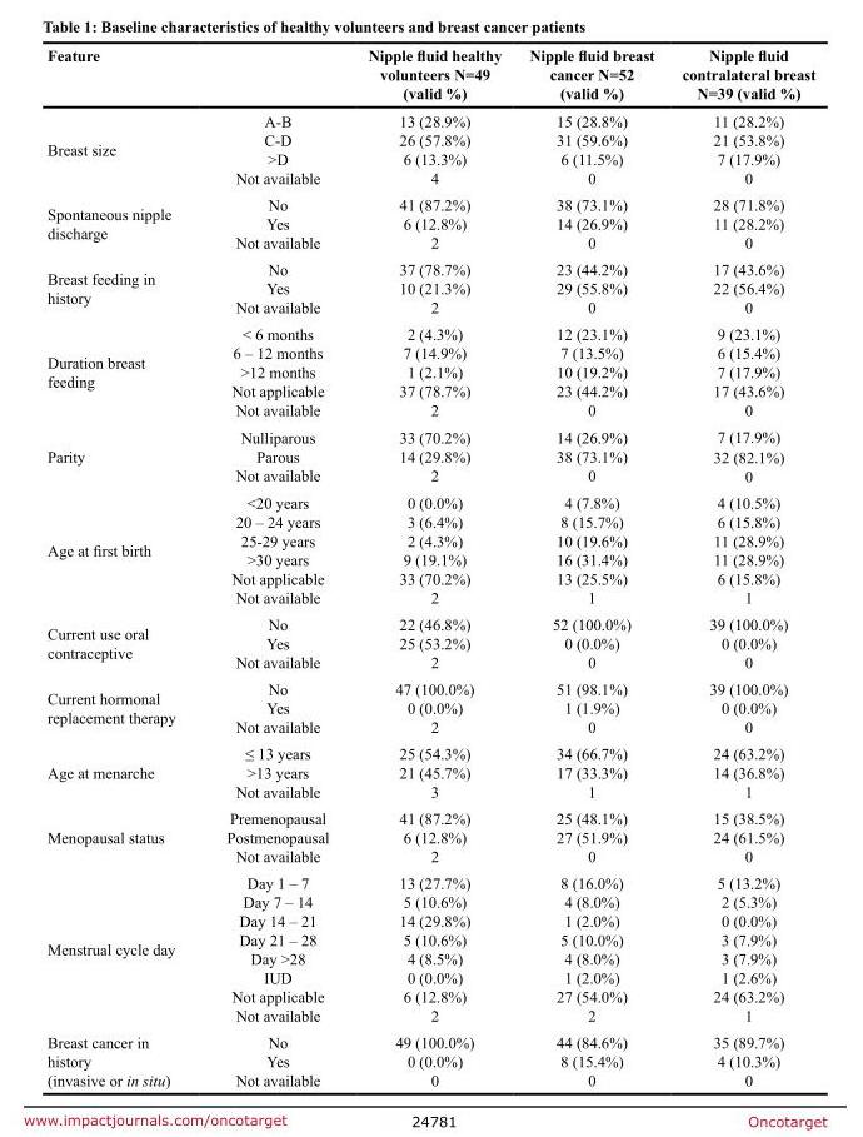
<table><thead><tr><td>Feature</td><td></td><td>Nipple fluid healthy volunteers N=49 (valid %)</td><td>Nipple fluid breast cancer N=52 (valid %)</td><td>Nipple fluid contralateral breast N=39 (valid %)</td></tr></thead><tbody><tr><td>Breast size</td><td>A-B C-D &gt;D Not available</td><td>13 (28.9%) 26 (57.8%) 6 (13.3%) 4</td><td>15 (28.8%) 31 (59.6%) 6 (11.5%) 0</td><td>11 (28.2%) 21 (53.8%) 7 (17.9%) 0</td></tr><tr><td>Spontaneous nipple discharge</td><td>No Yes Not available</td><td>41 (87.2%) 6 (12.8%) 2</td><td>38 (73.1%) 14 (26.9%) 0</td><td>28 (71.8%) 11 (28.2%) 0</td></tr><tr><td>Breast feeding in history</td><td>No Yes Not available</td><td>37 (78.7%) 10 (21.3%) 2</td><td>23 (44.2%) 29 (55.8%) 0</td><td>17 (43.6%) 22 (56.4%) 0</td></tr><tr><td>Duration breast feeding</td><td>&lt; 6 months 6 – 12 months &gt;12 months Not applicable Not available</td><td>2 (4.3%) 7 (14.9%) 1 (2.1%) 37 (78.7%) 2</td><td>12 (23.1%) 7 (13.5%) 10 (19.2%) 23 (44.2%) 0</td><td>9 (23.1%) 6 (15.4%) 7 (17.9%) 17 (43.6%) 0</td></tr><tr><td>Parity</td><td>Nulliparous Parous Not available</td><td>33 (70.2%) 14 (29.8%) 2</td><td>14 (26.9%) 38 (73.1%) 0</td><td>7 (17.9%) 32 (82.1%) 0</td></tr><tr><td>Age at first birth</td><td>&lt;20 years 20 – 24 years 25-29 years &gt;30 years Not applicable Not available</td><td>0 (0.0%) 3 (6.4%) 2 (4.3%) 9 (19.1%) 33 (70.2%) 2</td><td>4 (7.8%) 8 (15.7%) 10 (19.6%) 16 (31.4%) 13 (25.5%) 1</td><td>4 (10.5%) 6 (15.8%) 11 (28.9%) 11 (28.9%) 6 (15.8%) 1</td></tr><tr><td>Current use oral contraceptive</td><td>No Yes Not available</td><td>22 (46.8%) 25 (53.2%) 2</td><td>52 (100.0%) 0 (0.0%) 0</td><td>39 (100.0%) 0 (0.0%) 0</td></tr><tr><td>Current hormonal replacement therapy</td><td>No Yes Not available</td><td>47 (100.0%) 0 (0.0%) 2</td><td>51 (98.1%) 1 (1.9%) 0</td><td>39 (100.0%) 0 (0.0%) 0</td></tr><tr><td>Age at menarche</td><td>≤ 13 years &gt;13 years Not available</td><td>25 (54.3%) 21 (45.7%) 3</td><td>34 (66.7%) 17 (33.3%) 1</td><td>24 (63.2%) 14 (36.8%) 1</td></tr><tr><td>Menopausal status</td><td>Premenopausal Postmenopausal Not available</td><td>41 (87.2%) 6 (12.8%) 2</td><td>25 (48.1%) 27 (51.9%) 0</td><td>15 (38.5%) 24 (61.5%) 0</td></tr><tr><td>Menstrual cycle day</td><td>Day 1 – 7 Day 7 – 14 Day 14 – 21 Day 21 – 28 Day &gt;28 IUD Not applicable Not available</td><td>13 (27.7%) 5 (10.6%) 14 (29.8%) 5 (10.6%) 4 (8.5%) 0 (0.0%) 6 (12.8%) 2</td><td>8 (16.0%) 4 (8.0%) 1 (2.0%) 5 (10.0%) 4 (8.0%) 1 (2.0%) 27 (54.0%) 2</td><td>5 (13.2%) 2 (5.3%) 0 (0.0%) 3 (7.9%) 3 (7.9%) 1 (2.6%) 24 (63.2%) 1</td></tr><tr><td>Breast cancer in history (invasive or in situ)</td><td>No Yes Not available</td><td>49 (100.0%) 0 (0.0%) 0</td><td>44 (84.6%) 8 (15.4%) 0</td><td>35 (89.7%) 4 (10.3%) 0</td></tr></tbody></table>